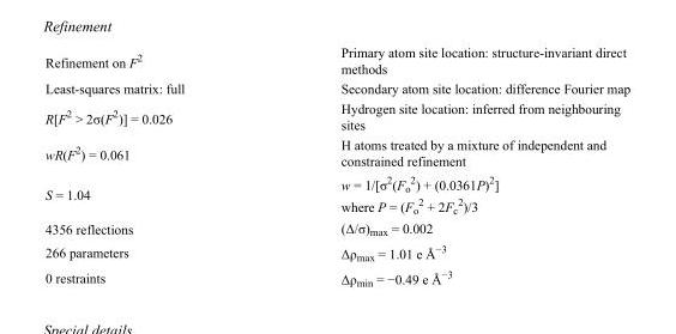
<table><tbody><tr><td>Refinement on F<sup>2</sup></td><td>Primary atom site location: structure-invariant direct methods</td></tr><tr><td>Least-squares matrix: full</td><td>Secondary atom site location: difference Fourier map</td></tr><tr><td>R[F<sup>2</sup> &gt; 2σ(F<sup>2</sup>)] = 0.026</td><td>Hydrogen site location: inferred from neighbouring sites</td></tr><tr><td>wR(F<sup>2</sup>) = 0.061</td><td>H atoms treated by a mixture of independent and constrained refinement</td></tr><tr><td>S = 1.04</td><td>w = 1/[σ<sup>2</sup>(F<sub>o</sub> <sup>2</sup>) + (0.0361P)<sup>2</sup>] where P = (F<sub>o</sub> <sup>2</sup> + 2F<sub>c</sub> <sup>2</sup>)/3</td></tr><tr><td>4356 reflections</td><td>(Δ/σ)<sub>max</sub> = 0.002</td></tr><tr><td>266 parameters</td><td>Δρ<sub>max</sub> = 1.01 e Å<sup>−3</sup></td></tr><tr><td>0 restraints</td><td>Δρ<sub>min</sub> = −0.49 e Å<sup>−3</sup></td></tr></tbody></table>